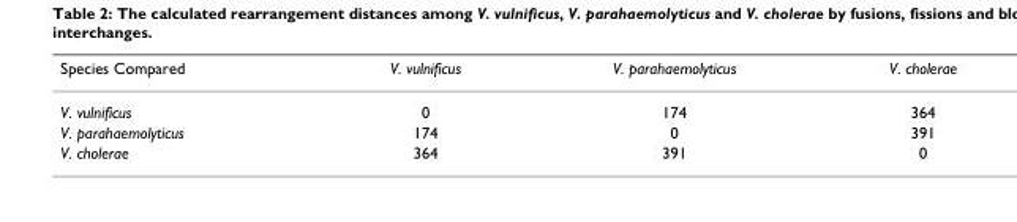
<table><thead><tr><td>Species Compared</td><td>V. vulnificus</td><td>V. parahaemolyticus</td><td>V. cholerae</td></tr></thead><tbody><tr><td>V. vulnificus</td><td>0</td><td>174</td><td>364</td></tr><tr><td>V. parahaemolyticus</td><td>174</td><td>0</td><td>391</td></tr><tr><td>V. cholerae</td><td>364</td><td>391</td><td>0</td></tr></tbody></table>